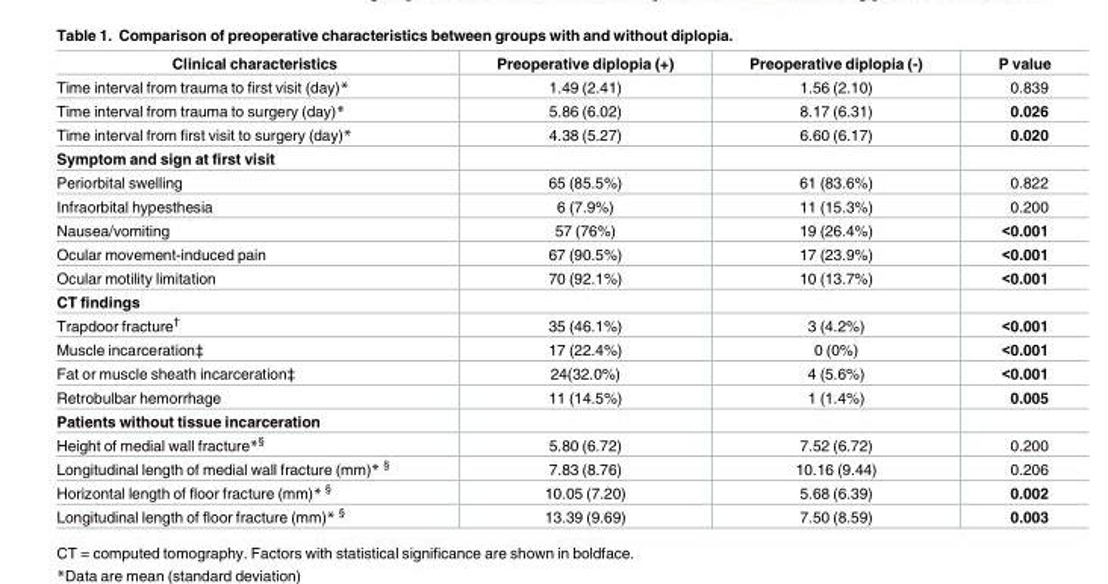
<table><thead><tr><td>Clinical characteristics</td><td>Preoperative diplopia (+)</td><td>Preoperative diplopia (-)</td><td>P value</td></tr></thead><tbody><tr><td>Time interval from trauma to first visit (day)*</td><td>1.49 (2.41)</td><td>1.56 (2.10)</td><td>0.839</td></tr><tr><td>Time interval from trauma to surgery (day)*</td><td>5.86 (6.02)</td><td>8.17 (6.31)</td><td>0.026</td></tr><tr><td>Time interval from first visit to surgery (day)*</td><td>4.38 (5.27)</td><td>6.60 (6.17)</td><td>0.020</td></tr><tr><td colspan="4">Symptom and sign at first visit</td></tr><tr><td>Periorbital swelling</td><td>65 (85.5%)</td><td>61 (83.6%)</td><td>0.822</td></tr><tr><td>Infraorbital hypesthesia</td><td>6 (7.9%)</td><td>11 (15.3%)</td><td>0.200</td></tr><tr><td>Nausea/vomiting</td><td>57 (76%)</td><td>19 (26.4%)</td><td>&lt;0.001</td></tr><tr><td>Ocular movement-induced pain</td><td>67 (90.5%)</td><td>17 (23.9%)</td><td>&lt;0.001</td></tr><tr><td>Ocular motility limitation</td><td>70 (92.1%)</td><td>10 (13.7%)</td><td>&lt;0.001</td></tr><tr><td colspan="4">CT findings</td></tr><tr><td>Trapdoor fracture<sup>†</sup></td><td>35 (46.1%)</td><td>3 (4.2%)</td><td>&lt;0.001</td></tr><tr><td>Muscle incarceration‡</td><td>17 (22.4%)</td><td>0 (0%)</td><td>&lt;0.001</td></tr><tr><td>Fat or muscle sheath incarceration‡</td><td>24(32.0%)</td><td>4 (5.6%)</td><td>&lt;0.001</td></tr><tr><td>Retrobulbar hemorrhage</td><td>11 (14.5%)</td><td>1 (1.4%)</td><td>0.005</td></tr><tr><td colspan="4">Patients without tissue incarceration</td></tr><tr><td>Height of medial wall fracture*<sup>§</sup></td><td>5.80 (6.72)</td><td>7.52 (6.72)</td><td>0.200</td></tr><tr><td>Longitudinal length of medial wall fracture (mm)* <sup>§</sup></td><td>7.83 (8.76)</td><td>10.16 (9.44)</td><td>0.206</td></tr><tr><td>Horizontal length of floor fracture (mm)* <sup>§</sup></td><td>10.05 (7.20)</td><td>5.68 (6.39)</td><td>0.002</td></tr><tr><td>Longitudinal length of floor fracture (mm)* <sup>§</sup></td><td>13.39 (9.69)</td><td>7.50 (8.59)</td><td>0.003</td></tr></tbody></table>